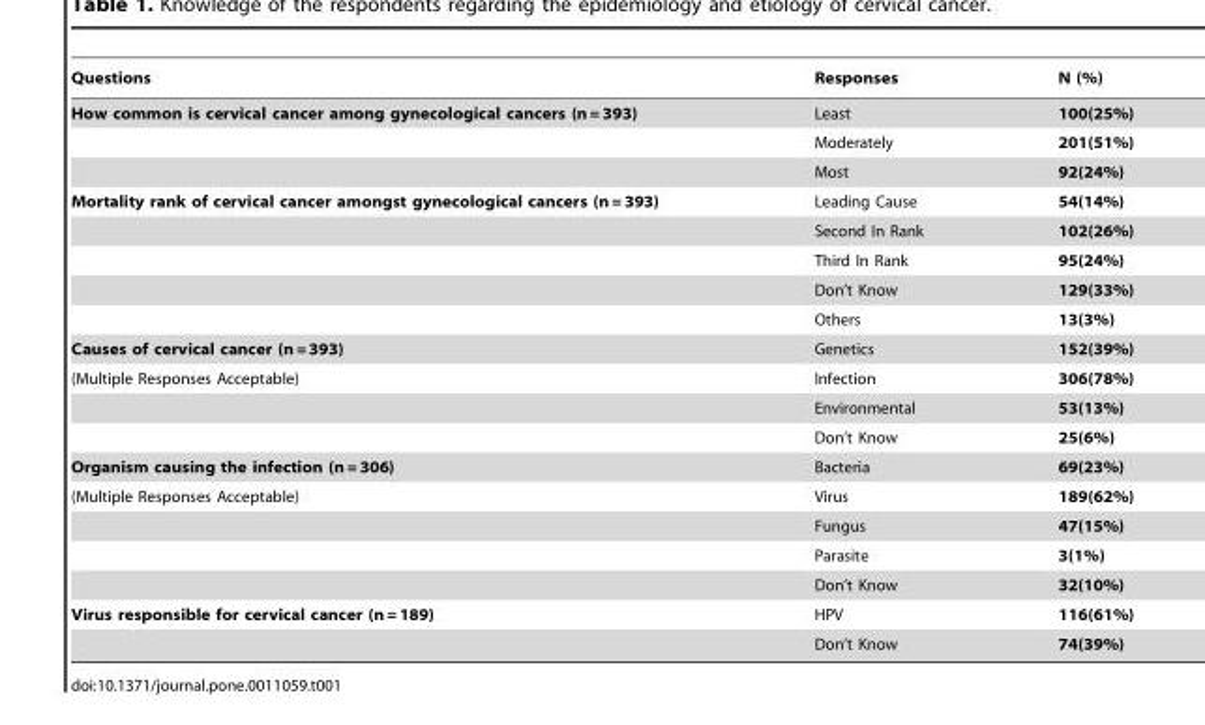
<table><thead><tr><td>Questions</td><td>Responses</td><td>N (%)</td></tr></thead><tbody><tr><td rowspan="3">How common is cervical cancer among gynecological cancers (n = 393)</td><td>Least</td><td>100(25%)</td></tr><tr><td>Moderately</td><td>201(51%)</td></tr><tr><td>Most</td><td>92(24%)</td></tr><tr><td rowspan="5">Mortality rank of cervical cancer amongst gynecological cancers (n = 393)</td><td>Leading Cause</td><td>54(14%)</td></tr><tr><td>Second In Rank</td><td>102(26%)</td></tr><tr><td>Third In Rank</td><td>95(24%)</td></tr><tr><td>Don’t Know</td><td>129(33%)</td></tr><tr><td>Others</td><td>13(3%)</td></tr><tr><td>Causes of cervical cancer (n = 393)</td><td>Genetics</td><td>152(39%)</td></tr><tr><td rowspan="3">(Multiple Responses Acceptable)</td><td>Infection</td><td>306(78%)</td></tr><tr><td>Environmental</td><td>53(13%)</td></tr><tr><td>Don’t Know</td><td>25(6%)</td></tr><tr><td>Organism causing the infection (n = 306)</td><td>Bacteria</td><td>69(23%)</td></tr><tr><td rowspan="4">(Multiple Responses Acceptable)</td><td>Virus</td><td>189(62%)</td></tr><tr><td>Fungus</td><td>47(15%)</td></tr><tr><td>Parasite</td><td>3(1%)</td></tr><tr><td>Don’t Know</td><td>32(10%)</td></tr><tr><td rowspan="2">Virus responsible for cervical cancer (n = 189)</td><td>HPV</td><td>116(61%)</td></tr><tr><td>Don’t Know</td><td>74(39%)</td></tr></tbody></table>